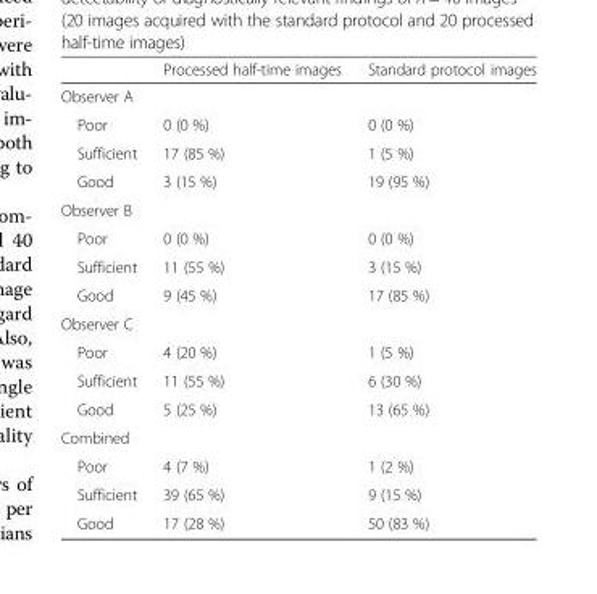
<table><thead><tr><td></td><td>Processed half-time images</td><td>Standard protocol images</td></tr></thead><tbody><tr><td colspan="3">Observer A</td></tr><tr><td>Poor</td><td>0 (0 %)</td><td>0 (0 %)</td></tr><tr><td>Sufficient</td><td>17 (85 %)</td><td>1 (5 %)</td></tr><tr><td>Good</td><td>3 (15 %)</td><td>19 (95 %)</td></tr><tr><td colspan="3">Observer B</td></tr><tr><td>Poor</td><td>0 (0 %)</td><td>0 (0 %)</td></tr><tr><td>Sufficient</td><td>11 (55 %)</td><td>3 (15 %)</td></tr><tr><td>Good</td><td>9 (45 %)</td><td>17 (85 %)</td></tr><tr><td colspan="3">Observer C</td></tr><tr><td>Poor</td><td>4 (20 %)</td><td>1 (5 %)</td></tr><tr><td>Sufficient</td><td>11 (55 %)</td><td>6 (30 %)</td></tr><tr><td>Good</td><td>5 (25 %)</td><td>13 (65 %)</td></tr><tr><td colspan="3">Combined</td></tr><tr><td>Poor</td><td>4 (7 %)</td><td>1 (2 %)</td></tr><tr><td>Sufficient</td><td>39 (65 %)</td><td>9 (15 %)</td></tr><tr><td>Good</td><td>17 (28 %)</td><td>50 (83 %)</td></tr></tbody></table>